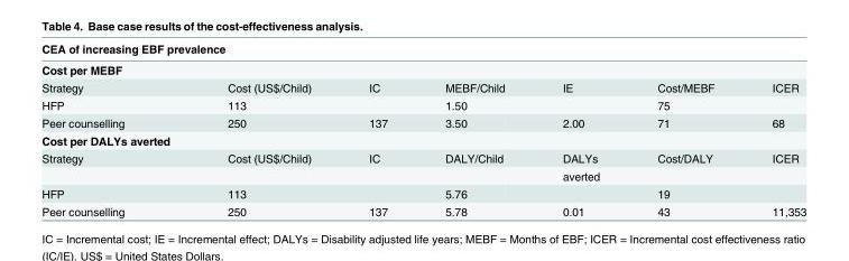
<table><thead><tr><td colspan="7">CEA of increasing EBF prevalence</td></tr><tr><td>Cost per MEBF</td><td></td><td></td><td></td><td></td><td></td><td></td></tr></thead><tbody><tr><td>Strategy</td><td>Cost (US$/Child)</td><td>IC</td><td>MEBF/Child</td><td>IE</td><td>Cost/MEBF</td><td>ICER</td></tr><tr><td>HFP</td><td>113</td><td></td><td>1.50</td><td></td><td>75</td><td></td></tr><tr><td>Peer counselling</td><td>250</td><td>137</td><td>3.50</td><td>2.00</td><td>71</td><td>68</td></tr><tr><td colspan="7">Cost per DALYs averted</td></tr><tr><td rowspan="2">Strategy</td><td>Cost (US$/Child)</td><td>IC</td><td>DALY/Child</td><td>DALYs</td><td>Cost/DALY</td><td>ICER</td></tr><tr><td></td><td></td><td></td><td>averted</td><td></td><td></td></tr><tr><td>HFP</td><td>113</td><td></td><td>5.76</td><td></td><td>19</td><td></td></tr><tr><td>Peer counselling</td><td>250</td><td>137</td><td>5.78</td><td>0.01</td><td>43</td><td>11,353</td></tr></tbody></table>